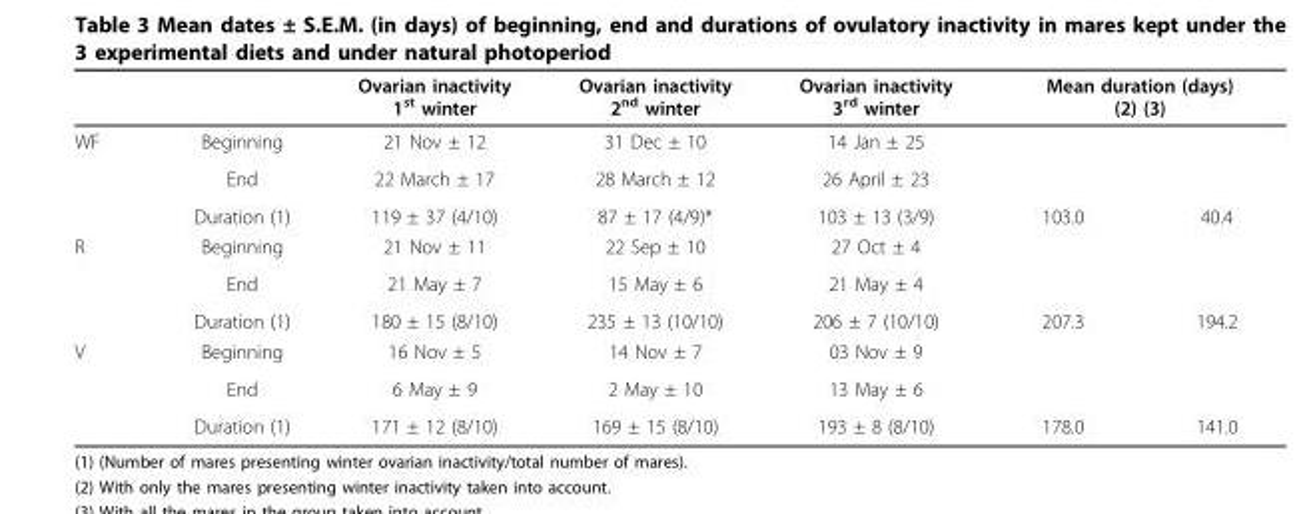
<table><thead><tr><td rowspan="4">WF</td><td rowspan="4">Beginning End Duration (1)</td><td rowspan="4">Ovarian inactivity 1<sup>st</sup> winter 21 Nov ± 12 22 March ± 17 119 ± 37 (4/10)</td><td rowspan="4">Ovarian inactivity 2<sup>nd</sup> winter 31 Dec ± 10 28 March ± 12 87 ± 17 (4/9)*</td><td rowspan="4">Ovarian inactivity 3<sup>rd</sup> winter 14 Jan ± 25 26 April ± 23 103 ± 13 (3/9)</td><td rowspan="3" colspan="2">Mean duration (days) (2) (3)</td></tr><tr></tr><tr></tr><tr><td>103.0</td><td>40.4</td></tr></thead><tbody><tr><td rowspan="3">R</td><td>Beginning</td><td>21 Nov ± 11</td><td>22 Sep ± 10</td><td>27 Oct ± 4</td><td colspan="2"></td></tr><tr><td>End</td><td>21 May ± 7</td><td>15 May ± 6</td><td>21 May ± 4</td><td colspan="2"></td></tr><tr><td>Duration (1)</td><td>180 ± 15 (8/10)</td><td>235 ± 13 (10/10)</td><td>206 ± 7 (10/10)</td><td>207.3</td><td>194.2</td></tr><tr><td rowspan="3">V</td><td>Beginning</td><td>16 Nov ± 5</td><td>14 Nov ± 7</td><td>03 Nov ± 9</td><td colspan="2"></td></tr><tr><td>End</td><td>6 May ± 9</td><td>2 May ± 10</td><td>13 May ± 6</td><td colspan="2"></td></tr><tr><td>Duration (1)</td><td>171 ± 12 (8/10)</td><td>169 ± 15 (8/10)</td><td>193 ± 8 (8/10)</td><td>178.0</td><td>141.0</td></tr></tbody></table>